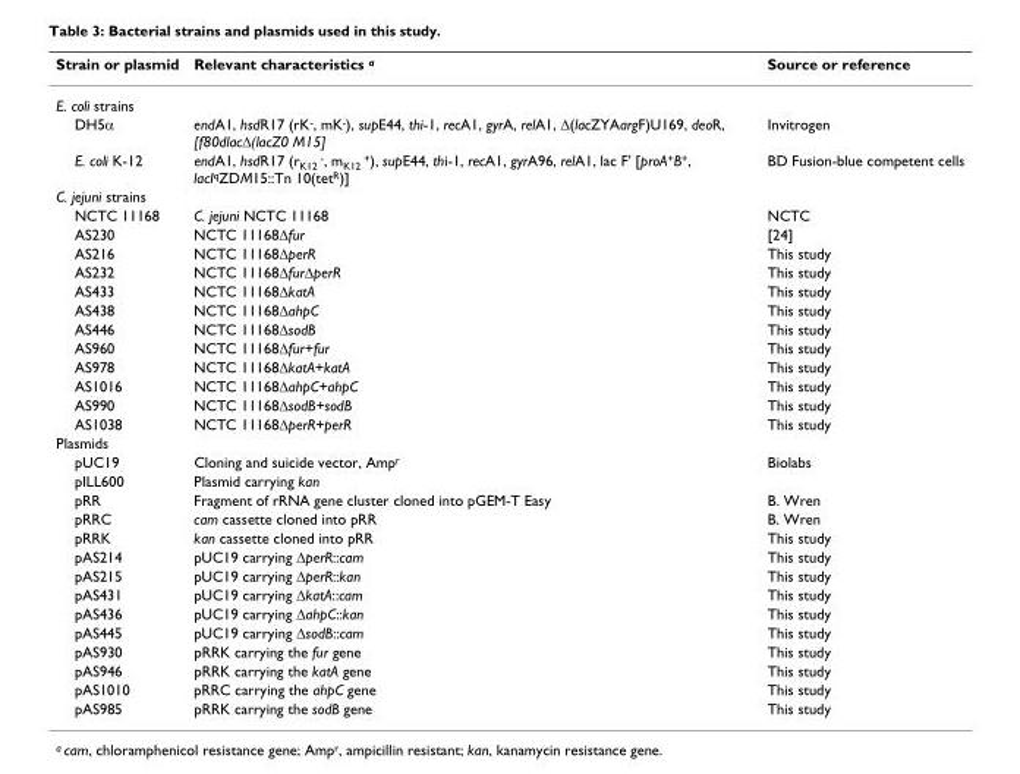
<table><thead><tr><td>Strain or plasmid</td><td>Relevant characteristics <sup>a</sup></td><td>Source or reference</td></tr></thead><tbody><tr><td colspan="3">E. coli strains</td></tr><tr><td>DH5α</td><td>endA1, hsdR17 (rK<sup>-</sup>, mK<sup>-</sup>), supE44, thi-1, recA1, gyrA, relA1, Δ(lacZYAargF)U169, deoR, [f80dlacΔ(lacZ0 M15]</td><td>Invitrogen</td></tr><tr><td>E. coli K-12</td><td>endA1, hsdR17 (r<sub>K12</sub> <sup>-</sup>, m<sub>K12</sub> <sup>+</sup>), supE44, thi-1, recA1, gyrA96, relA1, lac F&#x27; [proA<sup>+</sup>B<sup>+</sup>, lacI<sup>q</sup>ZDM15::Tn 10(tet<sup>R</sup>)]</td><td>BD Fusion-blue competent cells</td></tr><tr><td colspan="3">C. jejuni strains</td></tr><tr><td>NCTC 11168</td><td>C. jejuni NCTC 11168</td><td>NCTC</td></tr><tr><td>AS230</td><td>NCTC 11168Δfur</td><td>[24]</td></tr><tr><td>AS216</td><td>NCTC 11168ΔperR</td><td>This study</td></tr><tr><td>AS232</td><td>NCTC 11168ΔfurΔperR</td><td>This study</td></tr><tr><td>AS433</td><td>NCTC 11168ΔkatA</td><td>This study</td></tr><tr><td>AS438</td><td>NCTC 11168ΔahpC</td><td>This study</td></tr><tr><td>AS446</td><td>NCTC 11168ΔsodB</td><td>This study</td></tr><tr><td>AS960</td><td>NCTC 11168Δfur+fur</td><td>This study</td></tr><tr><td>AS978</td><td>NCTC 11168ΔkatA+katA</td><td>This study</td></tr><tr><td>AS1016</td><td>NCTC 11168ΔahpC+ahpC</td><td>This study</td></tr><tr><td>AS990</td><td>NCTC 11168ΔsodB+sodB</td><td>This study</td></tr><tr><td>AS1038</td><td>NCTC 11168ΔperR+perR</td><td>This study</td></tr><tr><td colspan="3">Plasmids</td></tr><tr><td>pUC19</td><td>Cloning and suicide vector, Amp<sup>r</sup></td><td>Biolabs</td></tr><tr><td>pILL600</td><td>Plasmid carrying kan</td><td></td></tr><tr><td>pRR</td><td>Fragment of rRNA gene cluster cloned into pGEM-T Easy</td><td>B. Wren</td></tr><tr><td>pRRC</td><td>cam cassette cloned into pRR</td><td>B. Wren</td></tr><tr><td>pRRK</td><td>kan cassette cloned into pRR</td><td>This study</td></tr><tr><td>pAS214</td><td>pUC19 carrying ΔperR::cam</td><td>This study</td></tr><tr><td>pAS215</td><td>pUC19 carrying ΔperR::kan</td><td>This study</td></tr><tr><td>pAS431</td><td>pUC19 carrying ΔkatA::cam</td><td>This study</td></tr><tr><td>pAS436</td><td>pUC19 carrying ΔahpC::kan</td><td>This study</td></tr><tr><td>pAS445</td><td>pUC19 carrying ΔsodB::cam</td><td>This study</td></tr><tr><td>pAS930</td><td>pRRK carrying the fur gene</td><td>This study</td></tr><tr><td>pAS946</td><td>pRRK carrying the katA gene</td><td>This study</td></tr><tr><td>pAS1010</td><td>pRRC carrying the ahpC gene</td><td>This study</td></tr><tr><td>pAS985</td><td>pRRK carrying the sodB gene</td><td>This study</td></tr></tbody></table>